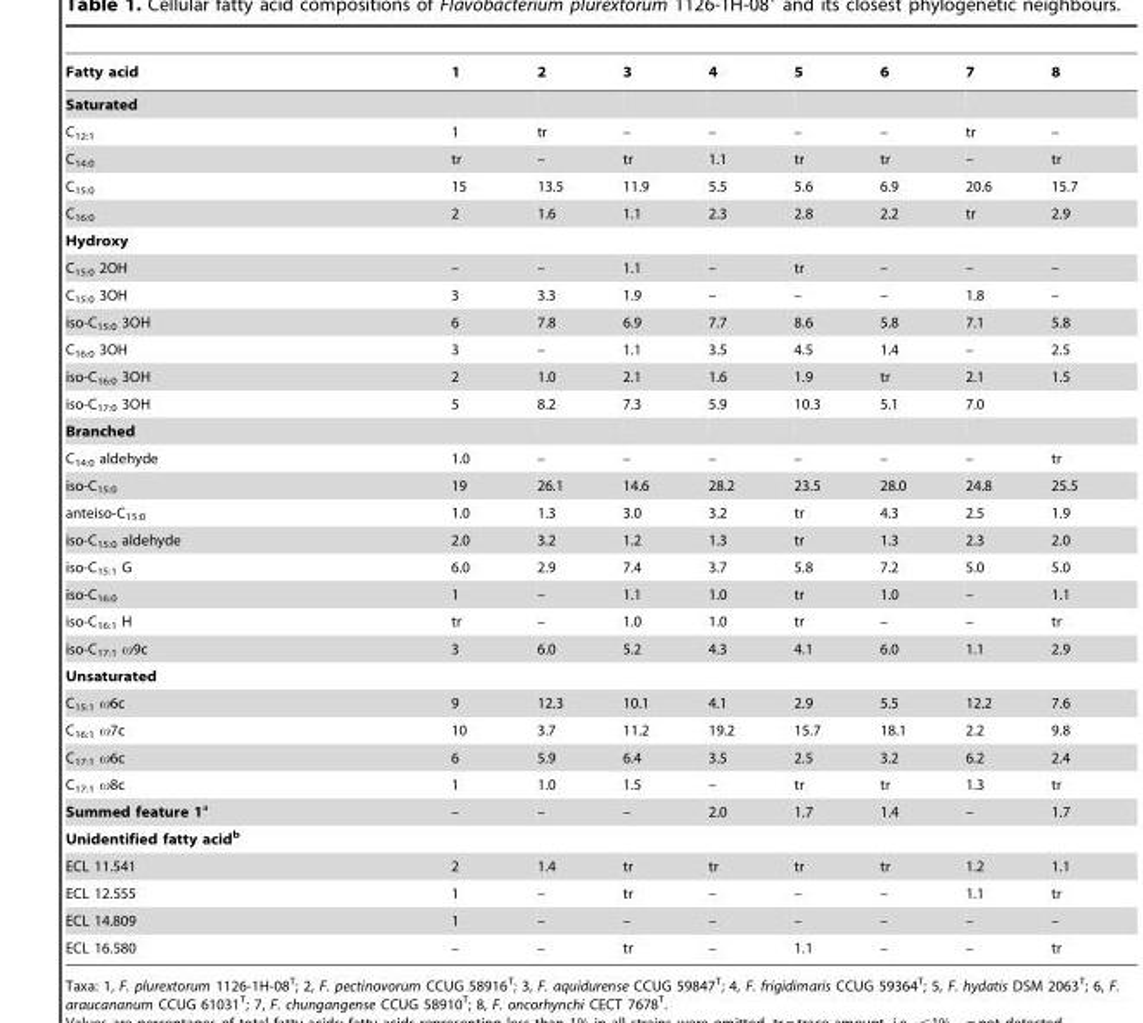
<table><thead><tr><td>Fatty acid</td><td>1</td><td>2</td><td>3</td><td>4</td><td>5</td><td>6</td><td>7</td><td>8</td></tr></thead><tbody><tr><td colspan="9">Saturated</td></tr><tr><td>C12:1</td><td>1</td><td>tr</td><td>–</td><td>–</td><td>–</td><td>–</td><td>tr</td><td>–</td></tr><tr><td>C14:0</td><td>tr</td><td>–</td><td>tr</td><td>1.1</td><td>tr</td><td>tr</td><td>–</td><td>tr</td></tr><tr><td>C15:0</td><td>15</td><td>13.5</td><td>11.9</td><td>5.5</td><td>5.6</td><td>6.9</td><td>20.6</td><td>15.7</td></tr><tr><td>C16:0</td><td>2</td><td>1.6</td><td>1.1</td><td>2.3</td><td>2.8</td><td>2.2</td><td>tr</td><td>2.9</td></tr><tr><td colspan="9">Hydroxy</td></tr><tr><td>C15:0 2OH</td><td>–</td><td>–</td><td>1.1</td><td>–</td><td>tr</td><td>–</td><td>–</td><td>–</td></tr><tr><td>C15:0 3OH</td><td>3</td><td>3.3</td><td>1.9</td><td>–</td><td>–</td><td>–</td><td>1.8</td><td>–</td></tr><tr><td>iso-C15:0 3OH</td><td>6</td><td>7.8</td><td>6.9</td><td>7.7</td><td>8.6</td><td>5.8</td><td>7.1</td><td>5.8</td></tr><tr><td>C16:0 3OH</td><td>3</td><td>–</td><td>1.1</td><td>3.5</td><td>4.5</td><td>1.4</td><td>–</td><td>2.5</td></tr><tr><td>iso-C16:0 3OH</td><td>2</td><td>1.0</td><td>2.1</td><td>1.6</td><td>1.9</td><td>tr</td><td>2.1</td><td>1.5</td></tr><tr><td>iso-C17:0 3OH</td><td>5</td><td>8.2</td><td>7.3</td><td>5.9</td><td>10.3</td><td>5.1</td><td>7.0</td><td></td></tr><tr><td colspan="9">Branched</td></tr><tr><td>C14:0 aldehyde</td><td>1.0</td><td>–</td><td>–</td><td>–</td><td>–</td><td>–</td><td>–</td><td>tr</td></tr><tr><td>iso-C15:0</td><td>19</td><td>26.1</td><td>14.6</td><td>28.2</td><td>23.5</td><td>28.0</td><td>24.8</td><td>25.5</td></tr><tr><td>anteiso-C15:0</td><td>1.0</td><td>1.3</td><td>3.0</td><td>3.2</td><td>tr</td><td>4.3</td><td>2.5</td><td>1.9</td></tr><tr><td>iso-C15:0 aldehyde</td><td>2.0</td><td>3.2</td><td>1.2</td><td>1.3</td><td>tr</td><td>1.3</td><td>2.3</td><td>2.0</td></tr><tr><td>iso-C15:1 G</td><td>6.0</td><td>2.9</td><td>7.4</td><td>3.7</td><td>5.8</td><td>7.2</td><td>5.0</td><td>5.0</td></tr><tr><td>iso-C16:0</td><td>1</td><td>–</td><td>1.1</td><td>1.0</td><td>tr</td><td>1.0</td><td>–</td><td>1.1</td></tr><tr><td>iso-C16:1 H</td><td>tr</td><td>–</td><td>1.0</td><td>1.0</td><td>tr</td><td>–</td><td>–</td><td>tr</td></tr><tr><td>iso-C17:1 ω9c</td><td>3</td><td>6.0</td><td>5.2</td><td>4.3</td><td>4.1</td><td>6.0</td><td>1.1</td><td>2.9</td></tr><tr><td colspan="9">Unsaturated</td></tr><tr><td>C15:1 ω6c</td><td>9</td><td>12.3</td><td>10.1</td><td>4.1</td><td>2.9</td><td>5.5</td><td>12.2</td><td>7.6</td></tr><tr><td>C16:1 ω7c</td><td>10</td><td>3.7</td><td>11.2</td><td>19.2</td><td>15.7</td><td>18.1</td><td>2.2</td><td>9.8</td></tr><tr><td>C17:1 ω6c</td><td>6</td><td>5.9</td><td>6.4</td><td>3.5</td><td>2.5</td><td>3.2</td><td>6.2</td><td>2.4</td></tr><tr><td>C17:1 ω8c</td><td>1</td><td>1.0</td><td>1.5</td><td>–</td><td>tr</td><td>tr</td><td>1.3</td><td>tr</td></tr><tr><td>Summed feature 1a</td><td>–</td><td>–</td><td>–</td><td>2.0</td><td>1.7</td><td>1.4</td><td>–</td><td>1.7</td></tr><tr><td colspan="9">Unidentified fatty acidb</td></tr><tr><td>ECL 11.541</td><td>2</td><td>1.4</td><td>tr</td><td>tr</td><td>tr</td><td>tr</td><td>1.2</td><td>1.1</td></tr><tr><td>ECL 12.555</td><td>1</td><td>–</td><td>tr</td><td>–</td><td>–</td><td>–</td><td>1.1</td><td>tr</td></tr><tr><td>ECL 14.809</td><td>1</td><td>–</td><td>–</td><td>–</td><td>–</td><td>–</td><td>–</td><td>–</td></tr><tr><td>ECL 16.580</td><td>–</td><td>–</td><td>tr</td><td>–</td><td>1.1</td><td>–</td><td>–</td><td>tr</td></tr></tbody></table>